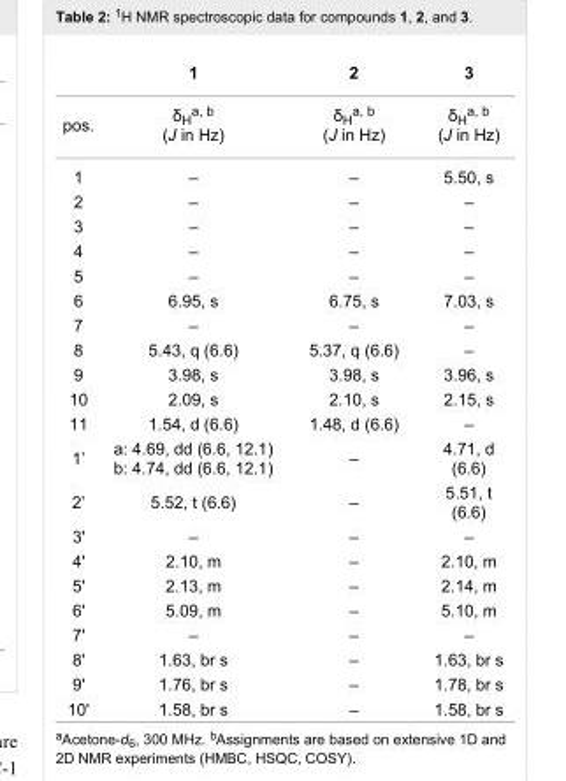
<table><thead><tr><td></td><td>1</td><td>2</td><td>3</td></tr></thead><tbody><tr><td>pos.</td><td>δ<sub>H</sub><sup>a, b</sup> (J in Hz)</td><td>δ<sub>H</sub><sup>a, b</sup> (J in Hz)</td><td>δ<sub>H</sub><sup>a, b</sup> (J in Hz)</td></tr><tr><td>1</td><td>–</td><td>–</td><td>5.50, s</td></tr><tr><td>2</td><td>–</td><td>–</td><td>–</td></tr><tr><td>3</td><td>–</td><td>–</td><td>–</td></tr><tr><td>4</td><td>–</td><td>–</td><td>–</td></tr><tr><td>5</td><td>–</td><td>–</td><td>–</td></tr><tr><td>6</td><td>6.95, s</td><td>6.75, s</td><td>7.03, s</td></tr><tr><td>7</td><td>–</td><td>–</td><td>–</td></tr><tr><td>8</td><td>5.43, q (6.6)</td><td>5.37, q (6.6)</td><td>–</td></tr><tr><td>9</td><td>3.98, s</td><td>3.98, s</td><td>3.96, s</td></tr><tr><td>10</td><td>2.09, s</td><td>2.10, s</td><td>2.15, s</td></tr><tr><td>11</td><td>1.54, d (6.6)</td><td>1.48, d (6.6)</td><td>–</td></tr><tr><td>1’</td><td>a: 4.69, dd (6.6, 12.1) b: 4.74, dd (6.6, 12.1)</td><td>–</td><td>4.71, d (6.6)</td></tr><tr><td>2’</td><td>5.52, t (6.6)</td><td>–</td><td>5.51, t (6.6)</td></tr><tr><td>3&#x27;</td><td>–</td><td>–</td><td>–</td></tr><tr><td>4&#x27;</td><td>2.10, m</td><td>–</td><td>2.10, m</td></tr><tr><td>5&#x27;</td><td>2.13, m</td><td>–</td><td>2.14, m</td></tr><tr><td>6&#x27;</td><td>5.09, m</td><td>–</td><td>5.10, m</td></tr><tr><td>7&#x27;</td><td>–</td><td>–</td><td>–</td></tr><tr><td>8&#x27;</td><td>1.63, br s</td><td>–</td><td>1.63, br s</td></tr><tr><td>9&#x27;</td><td>1.76, br s</td><td>–</td><td>1.78, br s</td></tr><tr><td>10&#x27;</td><td>1.58, br s</td><td>–</td><td>1.58, br s</td></tr></tbody></table>